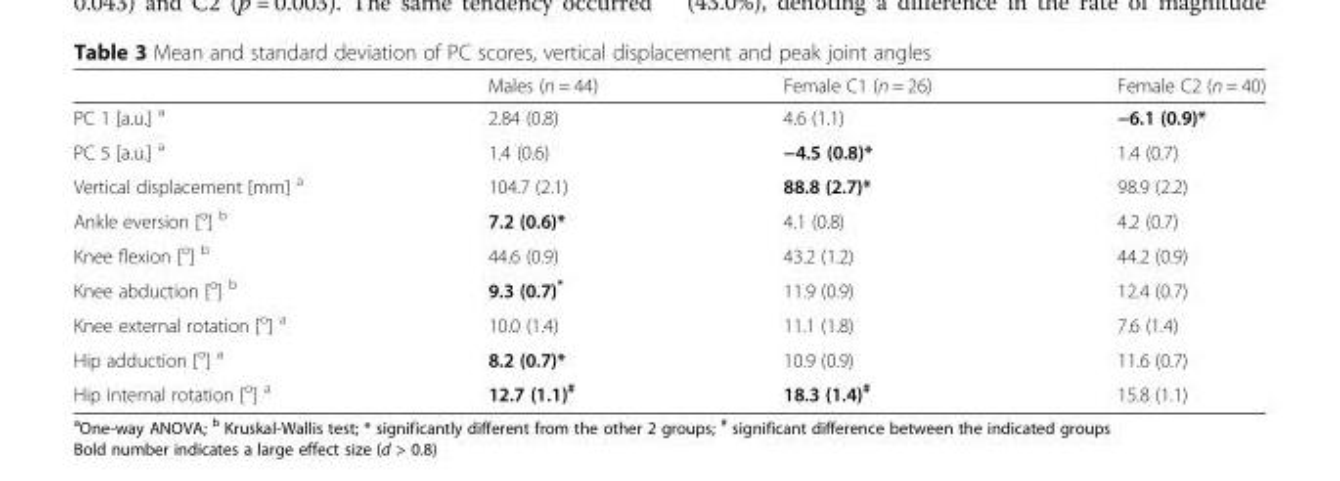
<table><thead><tr><td></td><td>Males (n = 44)</td><td>Female C1 (n = 26)</td><td>Female C2 (n = 40)</td></tr></thead><tbody><tr><td>PC 1 [a.u.] <sup>a</sup></td><td>2.84 (0.8)</td><td>4.6 (1.1)</td><td>−6.1 (0.9)*</td></tr><tr><td>PC 5 [a.u.] <sup>a</sup></td><td>1.4 (0.6)</td><td>−4.5 (0.8)*</td><td>1.4 (0.7)</td></tr><tr><td>Vertical displacement [mm] <sup>a</sup></td><td>104.7 (2.1)</td><td>88.8 (2.7)*</td><td>98.9 (2.2)</td></tr><tr><td>Ankle eversion [<sup>o</sup>] <sup>b</sup></td><td>7.2 (0.6)*</td><td>4.1 (0.8)</td><td>4.2 (0.7)</td></tr><tr><td>Knee flexion [<sup>o</sup>] <sup>b</sup></td><td>44.6 (0.9)</td><td>43.2 (1.2)</td><td>44.2 (0.9)</td></tr><tr><td>Knee abduction [<sup>o</sup>] <sup>b</sup></td><td>9.3 (0.7)*</td><td>11.9 (0.9)</td><td>12.4 (0.7)</td></tr><tr><td>Knee external rotation [<sup>o</sup>] <sup>a</sup></td><td>10.0 (1.4)</td><td>11.1 (1.8)</td><td>7.6 (1.4)</td></tr><tr><td>Hip adduction [<sup>o</sup>] <sup>a</sup></td><td>8.2 (0.7)*</td><td>10.9 (0.9)</td><td>11.6 (0.7)</td></tr><tr><td>Hip internal rotation [<sup>o</sup>] <sup>a</sup></td><td>12.7 (1.1)<sup>#</sup></td><td>18.3 (1.4)<sup>#</sup></td><td>15.8 (1.1)</td></tr></tbody></table>